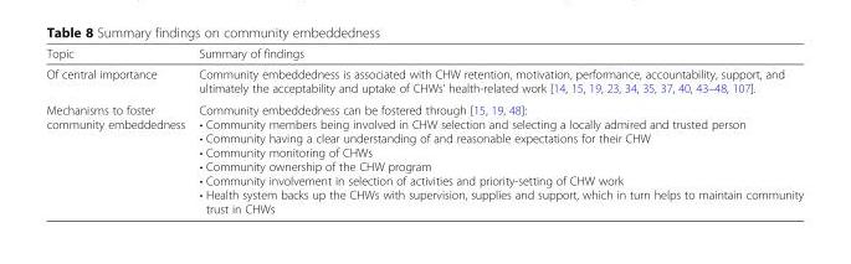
<table><thead><tr><td>Topic</td><td>Summary of findings</td></tr></thead><tbody><tr><td>Of central importance</td><td>Community embeddedness is associated with CHW retention, motivation, performance, accountability, support, and ultimately the acceptability and uptake of CHWs’ health-related work [14, 15, 19, 23, 34, 35, 37, 40, 43–48, 107].</td></tr><tr><td>Mechanisms to foster community embeddedness</td><td>Community embeddedness can be fostered through [15, 19, 48]: • Community members being involved in CHW selection and selecting a locally admired and trusted person • Community having a clear understanding of and reasonable expectations for their CHW • Community monitoring of CHWs • Community ownership of the CHW program • Community involvement in selection of activities and priority-setting of CHW work • Health system backs up the CHWs with supervision, supplies and support, which in turn helps to maintain community trust in CHWs</td></tr></tbody></table>